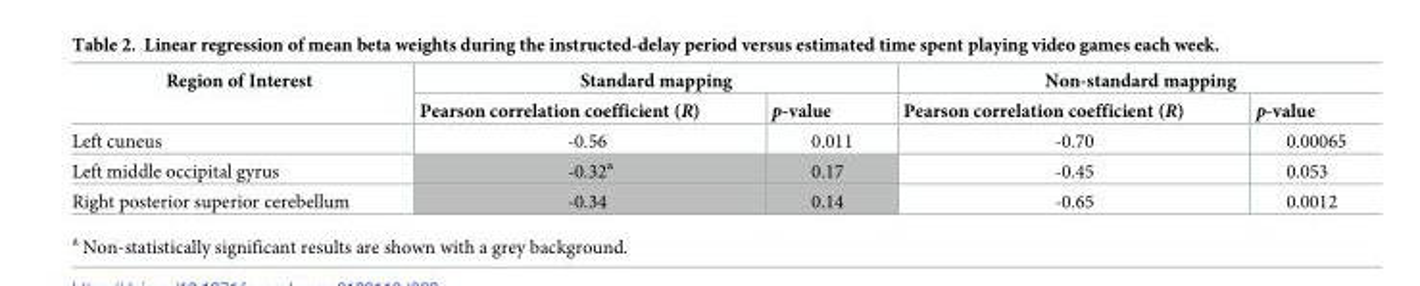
<table><thead><tr><td rowspan="2">Region of Interest</td><td colspan="2">Standard mapping</td><td colspan="2">Non-standard mapping</td></tr><tr><td>Pearson correlation coefficient (R)</td><td>p-value</td><td>Pearson correlation coefficient (R)</td><td>p-value</td></tr></thead><tbody><tr><td>Left cuneus</td><td>-0.56</td><td>0.011</td><td>-0.70</td><td>0.00065</td></tr><tr><td>Left middle occipital gyrus</td><td>-0.32<sup>a</sup></td><td>0.17</td><td>-0.45</td><td>0.053</td></tr><tr><td>Right posterior superior cerebellum</td><td>-0.34</td><td>0.14</td><td>-0.65</td><td>0.0012</td></tr></tbody></table>